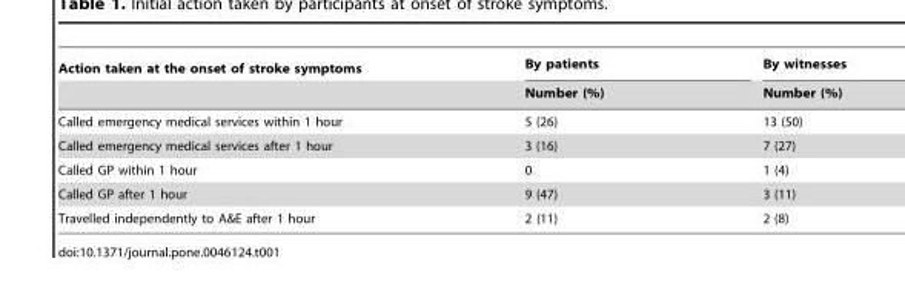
<table><thead><tr><td rowspan="2">Action taken at the onset of stroke symptoms</td><td rowspan="2">By patients Number (%)</td><td rowspan="2">By witnesses Number (%)</td></tr><tr></tr></thead><tbody><tr><td>Called emergency medical services within 1 hour</td><td>5 (26)</td><td>13 (50)</td></tr><tr><td>Called emergency medical services after 1 hour</td><td>3 (16)</td><td>7 (27)</td></tr><tr><td>Called GP within 1 hour</td><td>0</td><td>1 (4)</td></tr><tr><td>Called GP after 1 hour</td><td>9 (47)</td><td>3 (11)</td></tr><tr><td>Travelled independently to A&amp;E after 1 hour</td><td>2 (11)</td><td>2 (8)</td></tr></tbody></table>